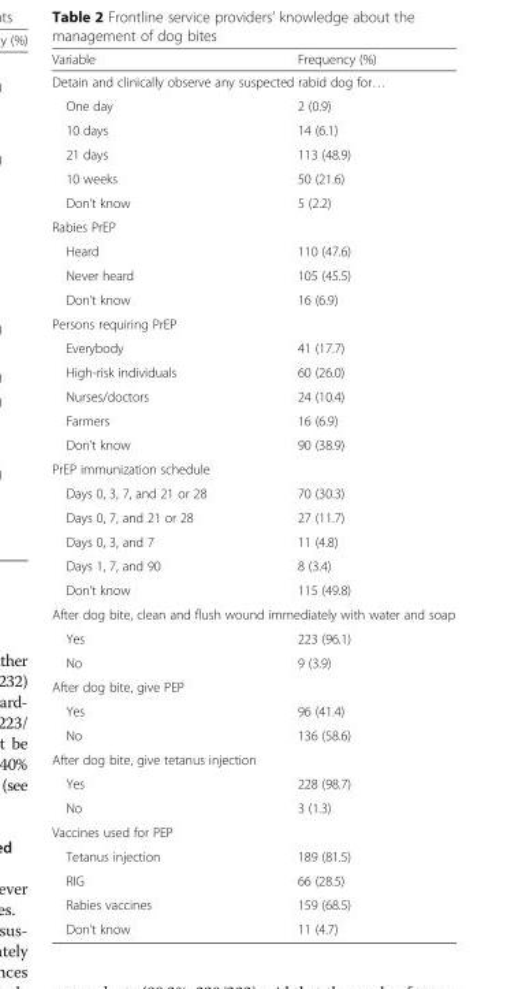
<table><thead><tr><td>Variable</td><td>Frequency (%)</td></tr></thead><tbody><tr><td colspan="2">Detain and clinically observe any suspected rabid dog for…</td></tr><tr><td>One day</td><td>2 (0.9)</td></tr><tr><td>10 days</td><td>14 (6.1)</td></tr><tr><td>21 days</td><td>113 (48.9)</td></tr><tr><td>10 weeks</td><td>50 (21.6)</td></tr><tr><td>Don’t know</td><td>5 (2.2)</td></tr><tr><td colspan="2">Rabies PrEP</td></tr><tr><td>Heard</td><td>110 (47.6)</td></tr><tr><td>Never heard</td><td>105 (45.5)</td></tr><tr><td>Don’t know</td><td>16 (6.9)</td></tr><tr><td colspan="2">Persons requiring PrEP</td></tr><tr><td>Everybody</td><td>41 (17.7)</td></tr><tr><td>High-risk individuals</td><td>60 (26.0)</td></tr><tr><td>Nurses/doctors</td><td>24 (10.4)</td></tr><tr><td>Farmers</td><td>16 (6.9)</td></tr><tr><td>Don’t know</td><td>90 (38.9)</td></tr><tr><td colspan="2">PrEP immunization schedule</td></tr><tr><td>Days 0, 3, 7, and 21 or 28</td><td>70 (30.3)</td></tr><tr><td>Days 0, 7, and 21 or 28</td><td>27 (11.7)</td></tr><tr><td>Days 0, 3, and 7</td><td>11 (4.8)</td></tr><tr><td>Days 1, 7, and 90</td><td>8 (3.4)</td></tr><tr><td>Don’t know</td><td>115 (49.8)</td></tr><tr><td colspan="2">After dog bite, clean and flush wound immediately with water and soap</td></tr><tr><td>Yes</td><td>223 (96.1)</td></tr><tr><td>No</td><td>9 (3.9)</td></tr><tr><td colspan="2">After dog bite, give PEP</td></tr><tr><td>Yes</td><td>96 (41.4)</td></tr><tr><td>No</td><td>136 (58.6)</td></tr><tr><td colspan="2">After dog bite, give tetanus injection</td></tr><tr><td>Yes</td><td>228 (98.7)</td></tr><tr><td>No</td><td>3 (1.3)</td></tr><tr><td colspan="2">Vaccines used for PEP</td></tr><tr><td>Tetanus injection</td><td>189 (81.5)</td></tr><tr><td>RIG</td><td>66 (28.5)</td></tr><tr><td>Rabies vaccines</td><td>159 (68.5)</td></tr><tr><td>Don’t know</td><td>11 (4.7)</td></tr></tbody></table>